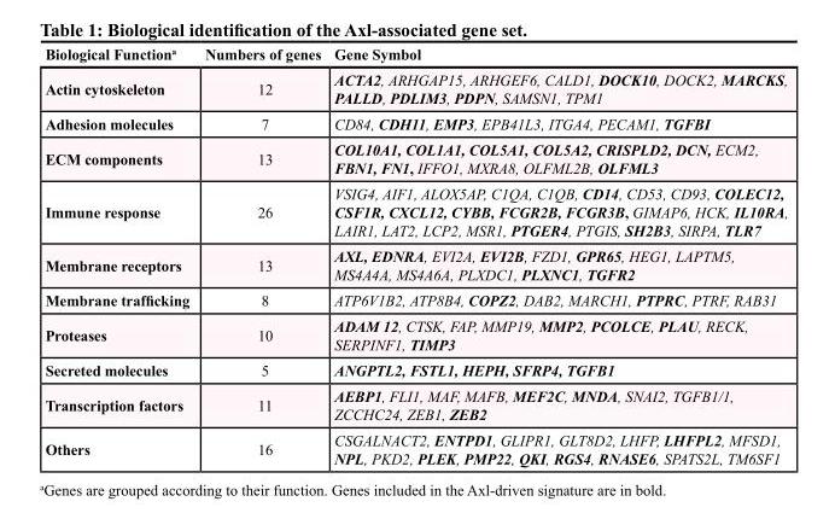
<table><thead><tr><td>Biological Function<sup>a</sup></td><td>Numbers of genes</td><td>Gene Symbol</td></tr></thead><tbody><tr><td>Actin cytoskeleton</td><td>12</td><td>ACTA2, ARHGAP15, ARHGEF6, CALD1, DOCK10, DOCK2, MARCKS, PALLD, PDLIM3, PDPN, SAMSN1, TPM1</td></tr><tr><td>Adhesion molecules</td><td>7</td><td>CD84, CDH11, EMP3, EPB41L3, ITGA4, PECAM1, TGFBI</td></tr><tr><td>ECM components</td><td>13</td><td>COL10A1, COL1A1, COL5A1, COL5A2, CRISPLD2, DCN, ECM2, FBN1, FN1, IFFO1, MXRA8, OLFML2B, OLFML3</td></tr><tr><td>Immune response</td><td>26</td><td>VSIG4, AIF1, ALOX5AP, C1QA, C1QB, CD14, CD53, CD93, COLEC12, CSF1R, CXCL12, CYBB, FCGR2B, FCGR3B, GIMAP6, HCK, IL10RA, LAIR1, LAT2, LCP2, MSR1, PTGER4, PTGIS, SH2B3, SIRPA, TLR7</td></tr><tr><td>Membrane receptors</td><td>13</td><td>AXL, EDNRA, EVI2A, EVI2B, FZD1, GPR65, HEG1, LAPTM5, MS4A4A, MS4A6A, PLXDC1, PLXNC1, TGFR2</td></tr><tr><td>Membrane trafficking</td><td>8</td><td>ATP6V1B2, ATP8B4, COPZ2, DAB2, MARCH1, PTPRC, PTRF, RAB31</td></tr><tr><td>Proteases</td><td>10</td><td>ADAM 12, CTSK, FAP, MMP19, MMP2, PCOLCE, PLAU, RECK, SERPINF1, TIMP3</td></tr><tr><td>Secreted molecules</td><td>5</td><td>ANGPTL2, FSTL1, HEPH, SFRP4, TGFB1</td></tr><tr><td>Transcription factors</td><td>11</td><td>AEBP1, FLI1, MAF, MAFB, MEF2C, MNDA, SNAI2, TGFB1/1, ZCCHC24, ZEB1, ZEB2</td></tr><tr><td>Others</td><td>16</td><td>CSGALNACT2, ENTPD1, GLIPR1, GLT8D2, LHFP, LHFPL2, MFSD1, NPL, PKD2, PLEK, PMP22, QKI, RGS4, RNASE6, SPATS2L, TM6SF1</td></tr></tbody></table>